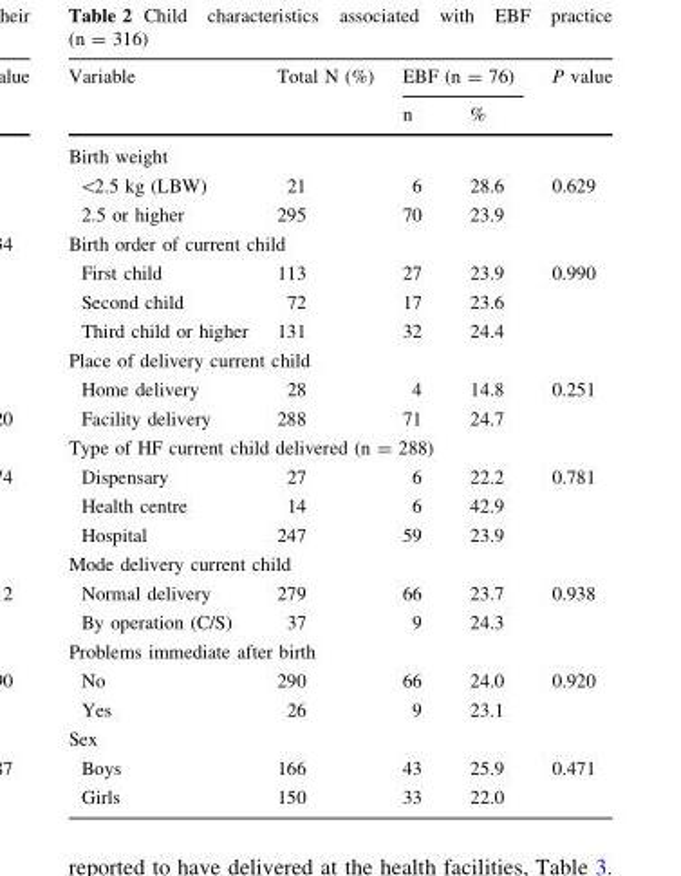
<table><thead><tr><td rowspan="2">Variable</td><td rowspan="2">Total N (%)</td><td colspan="2">EBF (n = 76)</td><td rowspan="2">P value</td></tr><tr><td>n</td><td>%</td></tr></thead><tbody><tr><td colspan="5">Birth weight</td></tr><tr><td>&lt;2.5 kg (LBW)</td><td>21</td><td>6</td><td>28.6</td><td rowspan="2">0.629</td></tr><tr><td>2.5 or higher</td><td>295</td><td>70</td><td>23.9</td></tr><tr><td colspan="5">Birth order of current child</td></tr><tr><td>First child</td><td>113</td><td>27</td><td>23.9</td><td rowspan="3">0.990</td></tr><tr><td>Second child</td><td>72</td><td>17</td><td>23.6</td></tr><tr><td>Third child or higher</td><td>131</td><td>32</td><td>24.4</td></tr><tr><td colspan="5">Place of delivery current child</td></tr><tr><td>Home delivery</td><td>28</td><td>4</td><td>14.8</td><td rowspan="2">0.251</td></tr><tr><td>Facility delivery</td><td>288</td><td>71</td><td>24.7</td></tr><tr><td colspan="5">Type of HF current child delivered (n = 288)</td></tr><tr><td>Dispensary</td><td>27</td><td>6</td><td>22.2</td><td rowspan="3">0.781</td></tr><tr><td>Health centre</td><td>14</td><td>6</td><td>42.9</td></tr><tr><td>Hospital</td><td>247</td><td>59</td><td>23.9</td></tr><tr><td colspan="5">Mode delivery current child</td></tr><tr><td>Normal delivery</td><td>279</td><td>66</td><td>23.7</td><td rowspan="2">0.938</td></tr><tr><td>By operation (C/S)</td><td>37</td><td>9</td><td>24.3</td></tr><tr><td colspan="5">Problems immediate after birth</td></tr><tr><td>No</td><td>290</td><td>66</td><td>24.0</td><td rowspan="2">0.920</td></tr><tr><td>Yes</td><td>26</td><td>9</td><td>23.1</td></tr><tr><td colspan="5">Sex</td></tr><tr><td>Boys</td><td>166</td><td>43</td><td>25.9</td><td rowspan="2">0.471</td></tr><tr><td>Girls</td><td>150</td><td>33</td><td>22.0</td></tr></tbody></table>